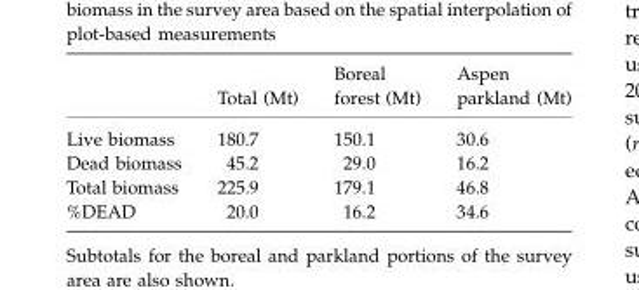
<table><thead><tr><td></td><td>Total (Mt)</td><td>Boreal forest (Mt)</td><td>Aspen parkland (Mt)</td></tr></thead><tbody><tr><td>Live biomass</td><td>180.7</td><td>150.1</td><td>30.6</td></tr><tr><td>Dead biomass</td><td>45.2</td><td>29.0</td><td>16.2</td></tr><tr><td>Total biomass</td><td>225.9</td><td>179.1</td><td>46.8</td></tr><tr><td>%DEAD</td><td>20.0</td><td>16.2</td><td>34.6</td></tr></tbody></table>